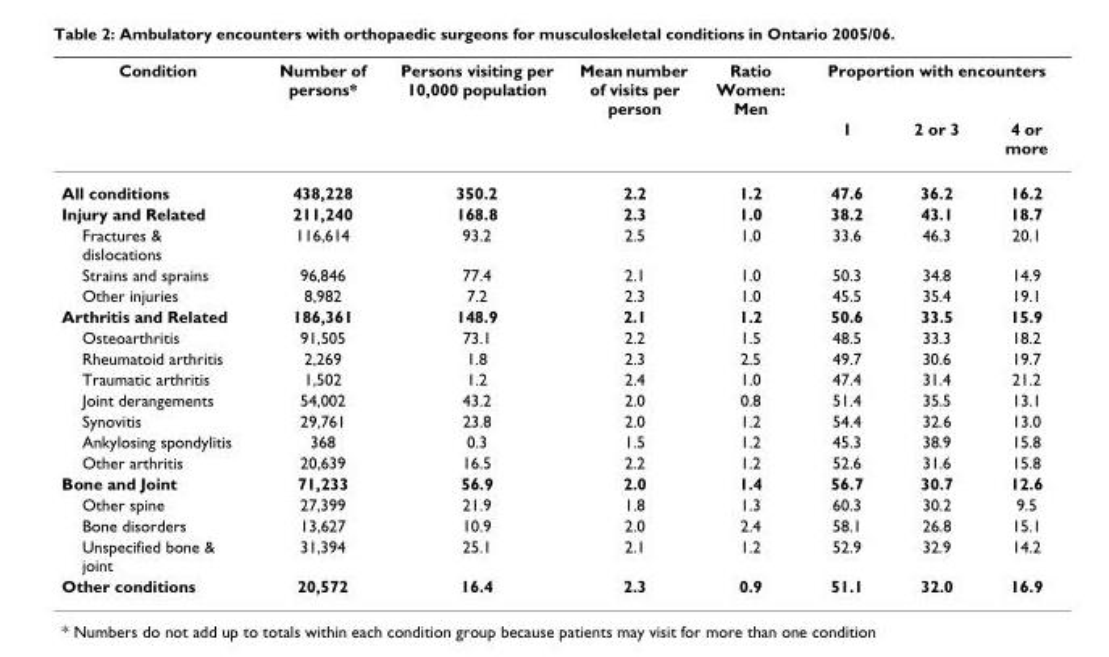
<table><thead><tr><td rowspan="2">Condition</td><td rowspan="2">Number of persons*</td><td rowspan="2">Persons visiting per 10,000 population</td><td rowspan="2">Mean number of visits per person</td><td rowspan="2">Ratio Women: Men</td><td colspan="3">Proportion with encounters</td></tr><tr><td>1</td><td>2 or 3</td><td>4 or more</td></tr></thead><tbody><tr><td>All conditions</td><td>438,228</td><td>350.2</td><td>2.2</td><td>1.2</td><td>47.6</td><td>36.2</td><td>16.2</td></tr><tr><td>Injury and Related</td><td>211,240</td><td>168.8</td><td>2.3</td><td>1.0</td><td>38.2</td><td>43.1</td><td>18.7</td></tr><tr><td>Fractures &amp; dislocations</td><td>116,614</td><td>93.2</td><td>2.5</td><td>1.0</td><td>33.6</td><td>46.3</td><td>20.1</td></tr><tr><td>Strains and sprains</td><td>96,846</td><td>77.4</td><td>2.1</td><td>1.0</td><td>50.3</td><td>34.8</td><td>14.9</td></tr><tr><td>Other injuries</td><td>8,982</td><td>7.2</td><td>2.3</td><td>1.0</td><td>45.5</td><td>35.4</td><td>19.1</td></tr><tr><td>Arthritis and Related</td><td>186,361</td><td>148.9</td><td>2.1</td><td>1.2</td><td>50.6</td><td>33.5</td><td>15.9</td></tr><tr><td>Osteoarthritis</td><td>91,505</td><td>73.1</td><td>2.2</td><td>1.5</td><td>48.5</td><td>33.3</td><td>18.2</td></tr><tr><td>Rheumatoid arthritis</td><td>2,269</td><td>1.8</td><td>2.3</td><td>2.5</td><td>49.7</td><td>30.6</td><td>19.7</td></tr><tr><td>Traumatic arthritis</td><td>1,502</td><td>1.2</td><td>2.4</td><td>1.0</td><td>47.4</td><td>31.4</td><td>21.2</td></tr><tr><td>Joint derangements</td><td>54,002</td><td>43.2</td><td>2.0</td><td>0.8</td><td>51.4</td><td>35.5</td><td>13.1</td></tr><tr><td>Synovitis</td><td>29,761</td><td>23.8</td><td>2.0</td><td>1.2</td><td>54.4</td><td>32.6</td><td>13.0</td></tr><tr><td>Ankylosing spondylitis</td><td>368</td><td>0.3</td><td>1.5</td><td>1.2</td><td>45.3</td><td>38.9</td><td>15.8</td></tr><tr><td>Other arthritis</td><td>20,639</td><td>16.5</td><td>2.2</td><td>1.2</td><td>52.6</td><td>31.6</td><td>15.8</td></tr><tr><td>Bone and Joint</td><td>71,233</td><td>56.9</td><td>2.0</td><td>1.4</td><td>56.7</td><td>30.7</td><td>12.6</td></tr><tr><td>Other spine</td><td>27,399</td><td>21.9</td><td>1.8</td><td>1.3</td><td>60.3</td><td>30.2</td><td>9.5</td></tr><tr><td>Bone disorders</td><td>13,627</td><td>10.9</td><td>2.0</td><td>2.4</td><td>58.1</td><td>26.8</td><td>15.1</td></tr><tr><td>Unspecified bone &amp; joint</td><td>31,394</td><td>25.1</td><td>2.1</td><td>1.2</td><td>52.9</td><td>32.9</td><td>14.2</td></tr><tr><td>Other conditions</td><td>20,572</td><td>16.4</td><td>2.3</td><td>0.9</td><td>51.1</td><td>32.0</td><td>16.9</td></tr></tbody></table>